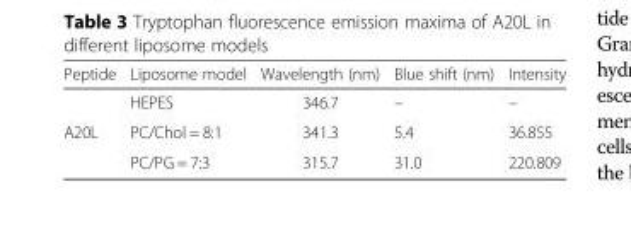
<table><thead><tr><td>Peptide</td><td>Liposome model</td><td>Wavelength (nm)</td><td>Blue shift (nm)</td><td>Intensity</td></tr></thead><tbody><tr><td rowspan="3">A20L</td><td>HEPES</td><td>346.7</td><td>–</td><td>–</td></tr><tr><td>PC/Chol = 8:1</td><td>341.3</td><td>5.4</td><td>36.855</td></tr><tr><td>PC/PG = 7:3</td><td>315.7</td><td>31.0</td><td>220.809</td></tr></tbody></table>